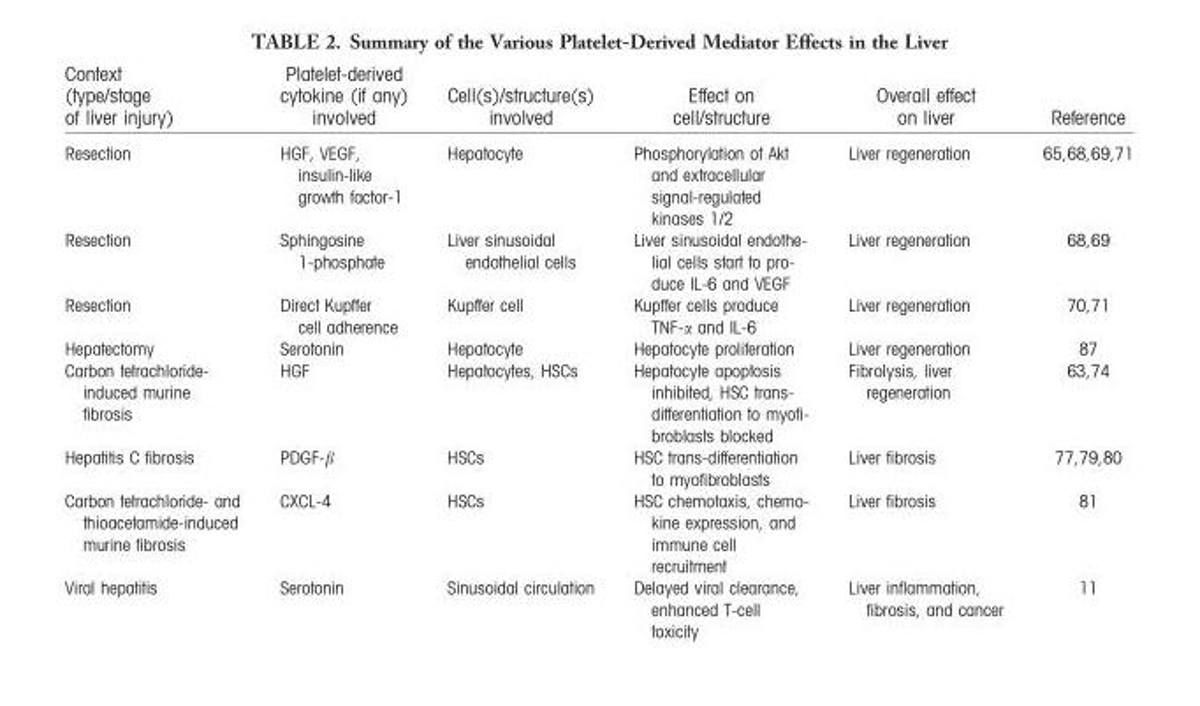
<table><thead><tr><td>Context (type/stage of liver injury)</td><td>Platelet-derived cytokine (if any) involved</td><td>Cell(s)/structure(s) involved</td><td>Effect on cell/structure</td><td>Overall effect on liver</td><td>Reference</td></tr></thead><tbody><tr><td>Resection</td><td>HGF, VEGF, insulin-like growth factor-1</td><td>Hepatocyte</td><td>Phosphorylation of Akt and extracellular signal-regulated kinases 1/2</td><td>Liver regeneration</td><td>65,68,69,71</td></tr><tr><td>Resection</td><td>Sphingosine 1-phosphate</td><td>Liver sinusoidal endothelial cells</td><td>Liver sinusoidal endothe- lial cells start to pro- duce IL-6 and VEGF</td><td>Liver regeneration</td><td>68,69</td></tr><tr><td>Resection</td><td>Direct Kupffer cell adherence</td><td>Kupffer cell</td><td>Kupffer cells produce TNF-α and IL-6</td><td>Liver regeneration</td><td>70,71</td></tr><tr><td>Hepatectomy</td><td>Serotonin</td><td>Hepatocyte</td><td>Hepatocyte proliferation</td><td>Liver regeneration</td><td>87</td></tr><tr><td>Carbon tetrachloride- induced murine fibrosis</td><td>HGF</td><td>Hepatocytes, HSCs</td><td>Hepatocyte apoptosis inhibited, HSC trans- differentiation to myofi- broblasts blocked</td><td>Fibrolysis, liver regeneration</td><td>63,74</td></tr><tr><td>Hepatitis C fibrosis</td><td>PDGF-β</td><td>HSCs</td><td>HSC trans-differentiation to myofibroblasts</td><td>Liver fibrosis</td><td>77,79,80</td></tr><tr><td>Carbon tetrachloride- and thioacetamide-induced murine fibrosis</td><td>CXCL-4</td><td>HSCs</td><td>HSC chemotaxis, chemo- kine expression, and immune cell recruitment</td><td>Liver fibrosis</td><td>81</td></tr><tr><td>Viral hepatitis</td><td>Serotonin</td><td>Sinusoidal circulation</td><td>Delayed viral clearance, enhanced T-cell toxicity</td><td>Liver inflammation, fibrosis, and cancer</td><td>11</td></tr></tbody></table>